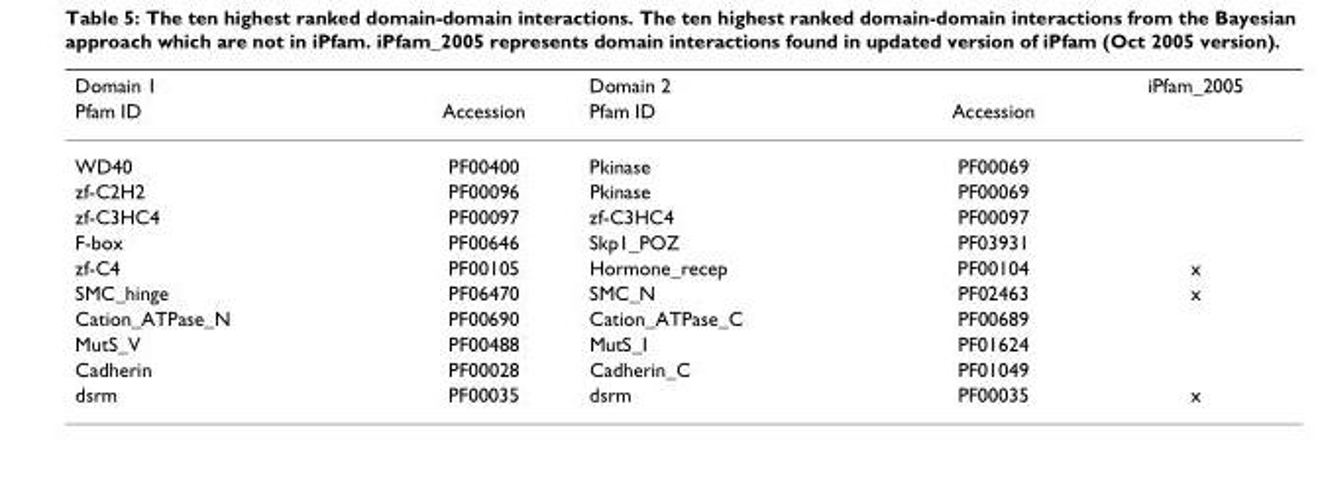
<table><thead><tr><td rowspan="2">Domain 1 Pfam ID</td><td rowspan="2">Accession</td><td rowspan="2">Domain 2 Pfam ID</td><td rowspan="2">Accession</td><td rowspan="2">iPfam_2005</td></tr><tr></tr></thead><tbody><tr><td>WD40</td><td>PF00400</td><td>Pkinase</td><td>PF00069</td><td></td></tr><tr><td>zf-C2H2</td><td>PF00096</td><td>Pkinase</td><td>PF00069</td><td></td></tr><tr><td>zf-C3HC4</td><td>PF00097</td><td>zf-C3HC4</td><td>PF00097</td><td></td></tr><tr><td>F-box</td><td>PF00646</td><td>Skp1_POZ</td><td>PF03931</td><td></td></tr><tr><td>zf-C4</td><td>PF00105</td><td>Hormone_recep</td><td>PF00104</td><td>x</td></tr><tr><td>SMC_hinge</td><td>PF06470</td><td>SMC_N</td><td>PF02463</td><td>x</td></tr><tr><td>Cation_ATPase_N</td><td>PF00690</td><td>Cation_ATPase_C</td><td>PF00689</td><td></td></tr><tr><td>MutS_V</td><td>PF00488</td><td>MutS_I</td><td>PF01624</td><td></td></tr><tr><td>Cadherin</td><td>PF00028</td><td>Cadherin_C</td><td>PF01049</td><td></td></tr><tr><td>dsrm</td><td>PF00035</td><td>dsrm</td><td>PF00035</td><td>x</td></tr></tbody></table>